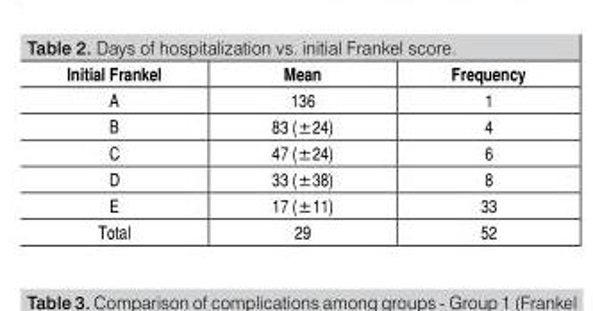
<table><thead><tr><td>Initial Frankel</td><td>Mean</td><td>Frequency</td></tr></thead><tbody><tr><td>A</td><td>136</td><td>1</td></tr><tr><td>B</td><td>83 (±24)</td><td>4</td></tr><tr><td>C</td><td>47 (±24)</td><td>6</td></tr><tr><td>D</td><td>33 (±38)</td><td>8</td></tr><tr><td>E</td><td>17 (±11)</td><td>33</td></tr><tr><td>Total</td><td>29</td><td>52</td></tr></tbody></table>